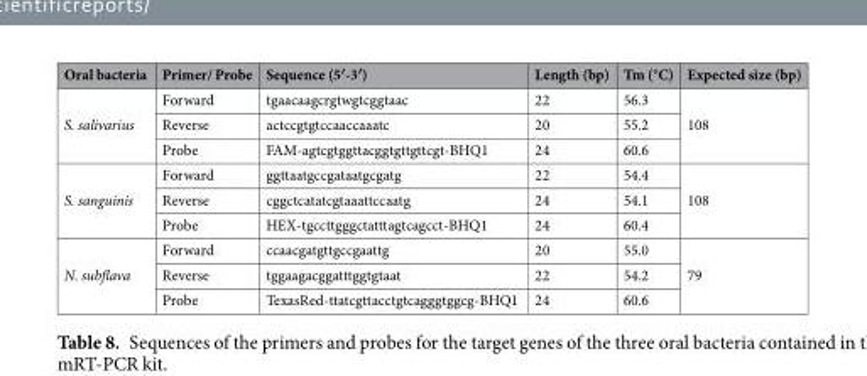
<table><thead><tr><td>Oral bacteria</td><td>Primer/ Probe</td><td>Sequence (5′-3′)</td><td>Length (bp)</td><td>Tm (°C)</td><td>Expected size (bp)</td></tr></thead><tbody><tr><td rowspan="3">S. salivarius</td><td>Forward</td><td>tgaacaagcrgtwgtcggtaac</td><td>22</td><td>56.3</td><td rowspan="3">108</td></tr><tr><td>Reverse</td><td>actccgtgtccaaccaaatc</td><td>20</td><td>55.2</td></tr><tr><td>Probe</td><td>FAM-agtcgtggttacggtgttgttcgt-BHQ1</td><td>24</td><td>60.6</td></tr><tr><td rowspan="3">S. sanguinis</td><td>Forward</td><td>ggttaatgccgataatgcgatg</td><td>22</td><td>54.4</td><td rowspan="3">108</td></tr><tr><td>Reverse</td><td>cggctcatatcgtaaattccaatg</td><td>24</td><td>54.1</td></tr><tr><td>Probe</td><td>HEX-tgccttgggctatttagtcagcct-BHQ1</td><td>24</td><td>60.4</td></tr><tr><td rowspan="3">N. subflava</td><td>Forward</td><td>ccaacgatgttgccgaattg</td><td>20</td><td>55.0</td><td rowspan="3">79</td></tr><tr><td>Reverse</td><td>tggaagacggatttggtgtaat</td><td>22</td><td>54.2</td></tr><tr><td>Probe</td><td>TexasRed-ttatcgttacctgtcagggtggcg-BHQ1</td><td>24</td><td>60.6</td></tr></tbody></table>